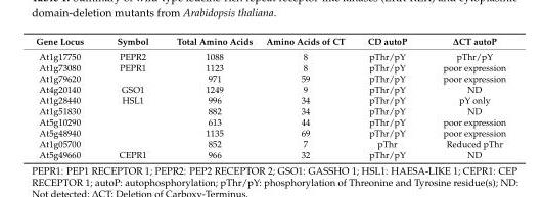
<table><thead><tr><td>Gene Locus</td><td>Symbol</td><td>Total Amino Acids</td><td>Amino Acids of CT</td><td>CD autoP</td><td>∆CT autoP</td></tr></thead><tbody><tr><td>At1g17750</td><td>PEPR2</td><td>1088</td><td>8</td><td>pThr/pY</td><td>pThr/pY</td></tr><tr><td>At1g73080</td><td>PEPR1</td><td>1123</td><td>8</td><td>pThr/pY</td><td>poor expression</td></tr><tr><td>At1g79620</td><td></td><td>971</td><td>59</td><td>pThr/pY</td><td>poor expression</td></tr><tr><td>At4g20140</td><td>GSO1</td><td>1249</td><td>9</td><td>pThr/pY</td><td>ND</td></tr><tr><td>At1g28440</td><td>HSL1</td><td>996</td><td>34</td><td>pThr/pY</td><td>pY only</td></tr><tr><td>At1g51830</td><td></td><td>882</td><td>34</td><td>pThr/pY</td><td>ND</td></tr><tr><td>At5g10290</td><td></td><td>613</td><td>44</td><td>pThr/pY</td><td>poor expression</td></tr><tr><td>At5g48940</td><td></td><td>1135</td><td>69</td><td>pThr/pY</td><td>poor expression</td></tr><tr><td>At1g05700</td><td></td><td>852</td><td>7</td><td>pThr</td><td>Reduced pThr</td></tr><tr><td>At5g49660</td><td>CEPR1</td><td>966</td><td>32</td><td>pThr/pY</td><td>ND</td></tr></tbody></table>